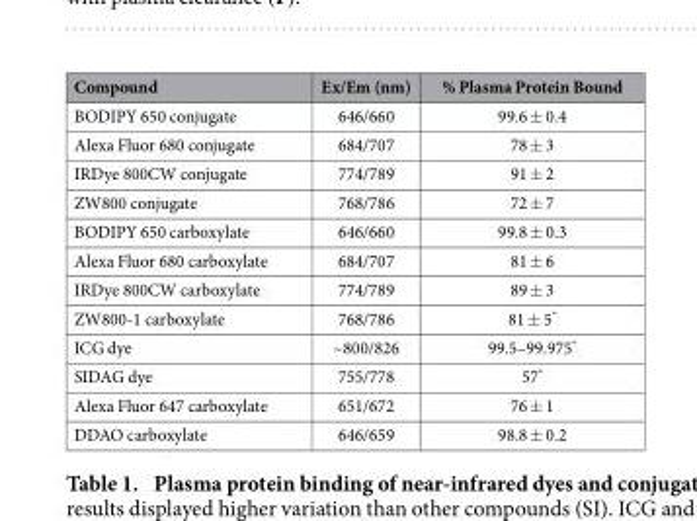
<table><thead><tr><td>Compound</td><td>Ex/Em (nm)</td><td>% Plasma Protein Bound</td></tr></thead><tbody><tr><td>BODIPY 650 conjugate</td><td>646/660</td><td>99.6 ± 0.4</td></tr><tr><td>Alexa Fluor 680 conjugate</td><td>684/707</td><td>78 ± 3</td></tr><tr><td>IRDye 800CW conjugate</td><td>774/789</td><td>91 ± 2</td></tr><tr><td>ZW800 conjugate</td><td>768/786</td><td>72 ± 7</td></tr><tr><td>BODIPY 650 carboxylate</td><td>646/660</td><td>99.8 ± 0.3</td></tr><tr><td>Alexa Fluor 680 carboxylate</td><td>684/707</td><td>81 ± 6</td></tr><tr><td>IRDye 800CW carboxylate</td><td>774/789</td><td>89 ± 3</td></tr><tr><td>ZW800-1 carboxylate</td><td>768/786</td><td>81 ± 5*</td></tr><tr><td>ICG dye</td><td>~800/826</td><td>99.5–99.975*</td></tr><tr><td>SIDAG dye</td><td>755/778</td><td>57*</td></tr><tr><td>Alexa Fluor 647 carboxylate</td><td>651/672</td><td>76 ± 1</td></tr><tr><td>DDAO carboxylate</td><td>646/659</td><td>98.8 ± 0.2</td></tr></tbody></table>